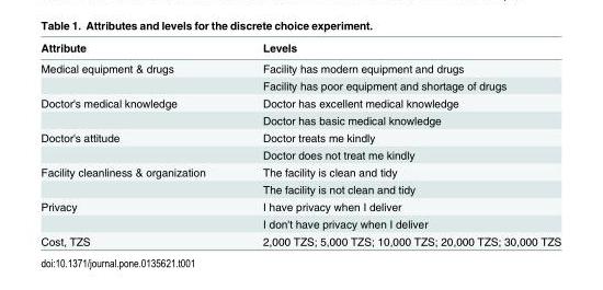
<table><thead><tr><td>Attribute</td><td>Levels</td></tr></thead><tbody><tr><td rowspan="2">Medical equipment &amp; drugs</td><td>Facility has modern equipment and drugs</td></tr><tr><td>Facility has poor equipment and shortage of drugs</td></tr><tr><td rowspan="2">Doctor&#x27;s medical knowledge</td><td>Doctor has excellent medical knowledge</td></tr><tr><td>Doctor has basic medical knowledge</td></tr><tr><td rowspan="2">Doctor&#x27;s attitude</td><td>Doctor treats me kindly</td></tr><tr><td>Doctor does not treat me kindly</td></tr><tr><td rowspan="2">Facility cleanliness &amp; organization</td><td>The facility is clean and tidy</td></tr><tr><td>The facility is not clean and tidy</td></tr><tr><td rowspan="2">Privacy</td><td>I have privacy when I deliver</td></tr><tr><td>I don&#x27;t have privacy when I deliver</td></tr><tr><td>Cost, TZS</td><td>2,000 TZS; 5,000 TZS; 10,000 TZS; 20,000 TZS; 30,000 TZS</td></tr></tbody></table>